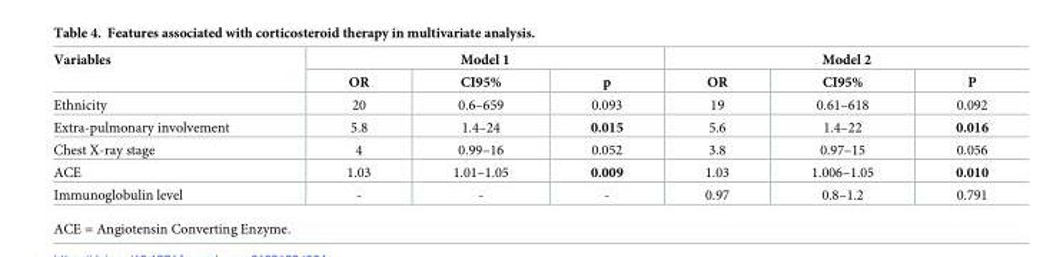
<table><thead><tr><td rowspan="2">Variables</td><td colspan="3">Model 1</td><td colspan="3">Model 2</td></tr><tr><td>OR</td><td>CI95%</td><td>p</td><td>OR</td><td>CI95%</td><td>P</td></tr></thead><tbody><tr><td>Ethnicity</td><td>20</td><td>0.6–659</td><td>0.093</td><td>19</td><td>0.61–618</td><td>0.092</td></tr><tr><td>Extra-pulmonary involvement</td><td>5.8</td><td>1.4–24</td><td>0.015</td><td>5.6</td><td>1.4–22</td><td>0.016</td></tr><tr><td>Chest X-ray stage</td><td>4</td><td>0.99–16</td><td>0.052</td><td>3.8</td><td>0.97–15</td><td>0.056</td></tr><tr><td>ACE</td><td>1.03</td><td>1.01–1.05</td><td>0.009</td><td>1.03</td><td>1.006–1.05</td><td>0.010</td></tr><tr><td>Immunoglobulin level</td><td>-</td><td>-</td><td>-</td><td>0.97</td><td>0.8–1.2</td><td>0.791</td></tr></tbody></table>